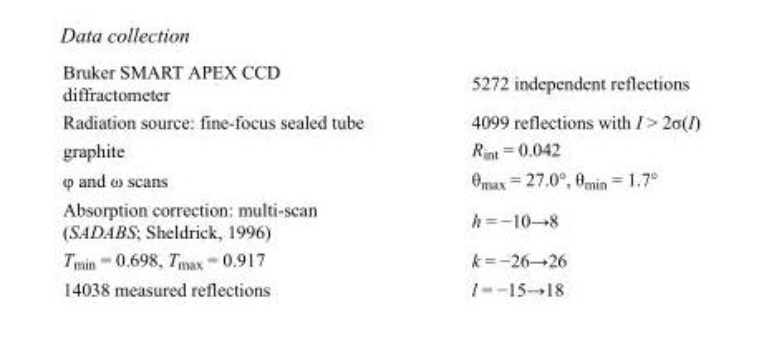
<table><tbody><tr><td>Bruker SMART APEX CCD diffractometer</td><td>5272 independent reflections</td></tr><tr><td>Radiation source: fine-focus sealed tube</td><td>4099 reflections with I &gt; 2σ(I)</td></tr><tr><td>graphite</td><td>R<sub>int</sub> = 0.042</td></tr><tr><td>φ and ω scans</td><td>θ<sub>max</sub> = 27.0°, θ<sub>min</sub> = 1.7°</td></tr><tr><td>Absorption correction: multi-scan (SADABS; Sheldrick, 1996)</td><td>h = −10→8</td></tr><tr><td>T<sub>min</sub> = 0.698, T<sub>max</sub> = 0.917</td><td>k = −26→26</td></tr><tr><td>14038 measured reflections</td><td>l = −15→18</td></tr></tbody></table>